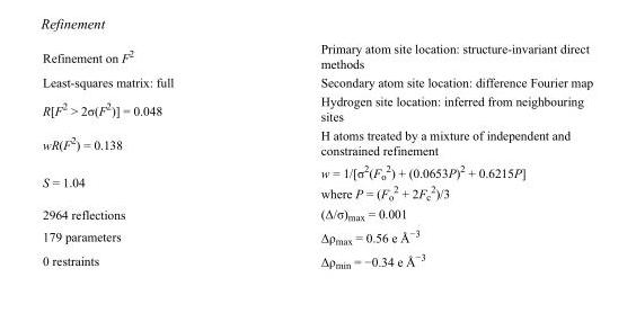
<table><tbody><tr><td>Refinement on F<sup>2</sup></td><td>Primary atom site location: structure-invariant direct methods</td></tr><tr><td>Least-squares matrix: full</td><td>Secondary atom site location: difference Fourier map</td></tr><tr><td>R[F<sup>2</sup> &gt; 2σ(F<sup>2</sup>)] = 0.048</td><td>Hydrogen site location: inferred from neighbouring sites</td></tr><tr><td>wR(F<sup>2</sup>) = 0.138</td><td>H atoms treated by a mixture of independent and constrained refinement</td></tr><tr><td>S = 1.04</td><td>w = 1/[σ<sup>2</sup>(F<sub>o</sub> <sup>2</sup>) + (0.0653P)<sup>2</sup> + 0.6215P] where P = (F<sub>o</sub> <sup>2</sup> + 2F<sub>c</sub> <sup>2</sup>)/3</td></tr><tr><td>2964 reflections</td><td>(Δ/σ)<sub>max</sub> = 0.001</td></tr><tr><td>179 parameters</td><td>Δρ<sub>max</sub> = 0.56 e Å<sup>−3</sup></td></tr><tr><td>0 restraints</td><td>Δρ<sub>min</sub> = −0.34 e Å<sup>−3</sup></td></tr></tbody></table>